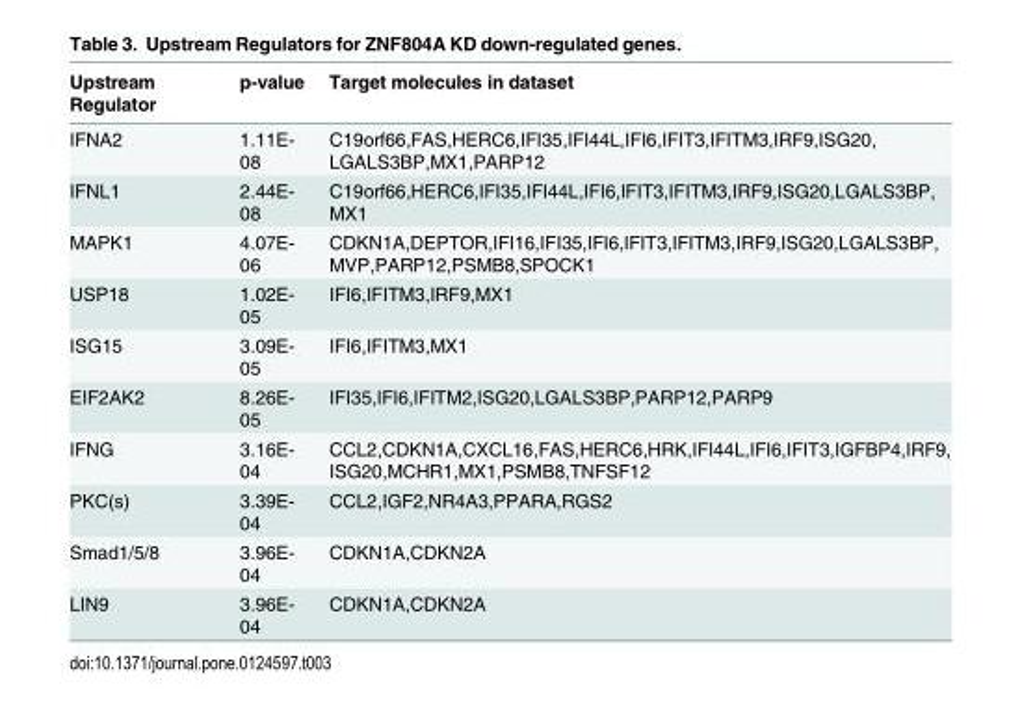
<table><thead><tr><td>Upstream Regulator</td><td>p-value</td><td>Target molecules in dataset</td></tr></thead><tbody><tr><td>IFNA2</td><td>1.11E- 08</td><td>C19orf66,FAS,HERC6,IFI35,IFI44L,IFI6,IFIT3,IFITM3,IRF9,ISG20, LGALS3BP,MX1,PARP12</td></tr><tr><td>IFNL1</td><td>2.44E- 08</td><td>C19orf66,HERC6,IFI35,IFI44L,IFI6,IFIT3,IFITM3,IRF9,ISG20,LGALS3BP, MX1</td></tr><tr><td>MAPK1</td><td>4.07E- 06</td><td>CDKN1A,DEPTOR,IFI16,IFI35,IFI6,IFIT3,IFITM3,IRF9,ISG20,LGALS3BP, MVP,PARP12,PSMB8,SPOCK1</td></tr><tr><td>USP18</td><td>1.02E- 05</td><td>IFI6,IFITM3,IRF9,MX1</td></tr><tr><td>ISG15</td><td>3.09E- 05</td><td>IFI6,IFITM3,MX1</td></tr><tr><td>EIF2AK2</td><td>8.26E- 05</td><td>IFI35,IFI6,IFITM2,ISG20,LGALS3BP,PARP12,PARP9</td></tr><tr><td>IFNG</td><td>3.16E- 04</td><td>CCL2,CDKN1A,CXCL16,FAS,HERC6,HRK,IFI44L,IFI6,IFIT3,IGFBP4,IRF9, ISG20,MCHR1,MX1,PSMB8,TNFSF12</td></tr><tr><td>PKC(s)</td><td>3.39E- 04</td><td>CCL2,IGF2,NR4A3,PPARA,RGS2</td></tr><tr><td>Smad1/5/8</td><td>3.96E- 04</td><td>CDKN1A,CDKN2A</td></tr><tr><td>LIN9</td><td>3.96E- 04</td><td>CDKN1A,CDKN2A</td></tr></tbody></table>